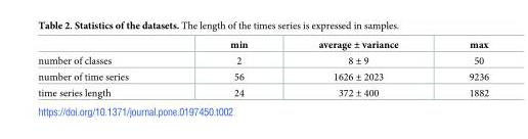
<table><thead><tr><td></td><td>min</td><td>average ± variance</td><td>max</td></tr></thead><tbody><tr><td>number of classes</td><td>2</td><td>8 ± 9</td><td>50</td></tr><tr><td>number of time series</td><td>56</td><td>1626 ± 2023</td><td>9236</td></tr><tr><td>time series length</td><td>24</td><td>372 ± 400</td><td>1882</td></tr></tbody></table>